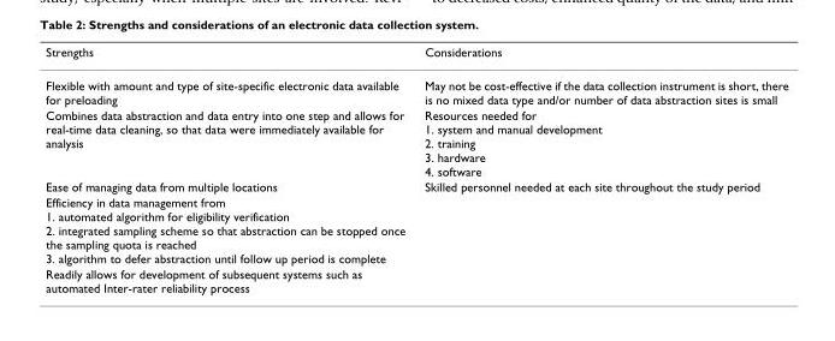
<table><thead><tr><td>Strengths</td><td>Considerations</td></tr></thead><tbody><tr><td>Flexible with amount and type of site-specific electronic data available for preloading</td><td>May not be cost-effective if the data collection instrument is short, there is no mixed data type and/or number of data abstraction sites is small</td></tr><tr><td>Combines data abstraction and data entry into one step and allows for real-time data cleaning, so that data were immediately available for analysis</td><td>Resources needed for 1. system and manual development 2. training 3. hardware 4. software</td></tr><tr><td>Ease of managing data from multiple locations</td><td>Skilled personnel needed at each site throughout the study period</td></tr><tr><td colspan="2">Efficiency in data management from 1. automated algorithm for eligibility verification 2. integrated sampling scheme so that abstraction can be stopped once the sampling quota is reached 3. algorithm to defer abstraction until follow up period is complete</td></tr><tr><td>Readily allows for development of subsequent systems such as automated Inter-rater reliability process</td><td></td></tr></tbody></table>